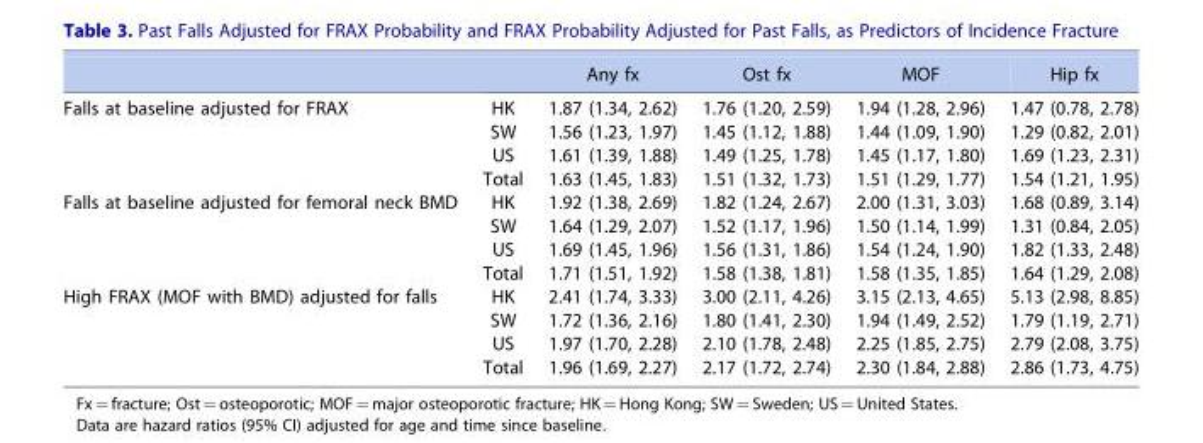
<table><thead><tr><td></td><td></td><td>Any fx</td><td>Ost fx</td><td>MOF</td><td>Hip fx</td></tr></thead><tbody><tr><td rowspan="4">Falls at baseline adjusted for FRAX</td><td>HK</td><td>1.87 (1.34, 2.62)</td><td>1.76 (1.20, 2.59)</td><td>1.94 (1.28, 2.96)</td><td>1.47 (0.78, 2.78)</td></tr><tr><td>SW</td><td>1.56 (1.23, 1.97)</td><td>1.45 (1.12, 1.88)</td><td>1.44 (1.09, 1.90)</td><td>1.29 (0.82, 2.01)</td></tr><tr><td>US</td><td>1.61 (1.39, 1.88)</td><td>1.49 (1.25, 1.78)</td><td>1.45 (1.17, 1.80)</td><td>1.69 (1.23, 2.31)</td></tr><tr><td>Total</td><td>1.63 (1.45, 1.83)</td><td>1.51 (1.32, 1.73)</td><td>1.51 (1.29, 1.77)</td><td>1.54 (1.21, 1.95)</td></tr><tr><td rowspan="4">Falls at baseline adjusted for femoral neck BMD</td><td>HK</td><td>1.92 (1.38, 2.69)</td><td>1.82 (1.24, 2.67)</td><td>2.00 (1.31, 3.03)</td><td>1.68 (0.89, 3.14)</td></tr><tr><td>SW</td><td>1.64 (1.29, 2.07)</td><td>1.52 (1.17, 1.96)</td><td>1.50 (1.14, 1.99)</td><td>1.31 (0.84, 2.05)</td></tr><tr><td>US</td><td>1.69 (1.45, 1.96)</td><td>1.56 (1.31, 1.86)</td><td>1.54 (1.24, 1.90)</td><td>1.82 (1.33, 2.48)</td></tr><tr><td>Total</td><td>1.71 (1.51, 1.92)</td><td>1.58 (1.38, 1.81)</td><td>1.58 (1.35, 1.85)</td><td>1.64 (1.29, 2.08)</td></tr><tr><td rowspan="4">High FRAX (MOF with BMD) adjusted for falls</td><td>HK</td><td>2.41 (1.74, 3.33)</td><td>3.00 (2.11, 4.26)</td><td>3.15 (2.13, 4.65)</td><td>5.13 (2.98, 8.85)</td></tr><tr><td>SW</td><td>1.72 (1.36, 2.16)</td><td>1.80 (1.41, 2.30)</td><td>1.94 (1.49, 2.52)</td><td>1.79 (1.19, 2.71)</td></tr><tr><td>US</td><td>1.97 (1.70, 2.28)</td><td>2.10 (1.78, 2.48)</td><td>2.25 (1.85, 2.75)</td><td>2.79 (2.08, 3.75)</td></tr><tr><td>Total</td><td>1.96 (1.69, 2.27)</td><td>2.17 (1.72, 2.74)</td><td>2.30 (1.84, 2.88)</td><td>2.86 (1.73, 4.75)</td></tr></tbody></table>